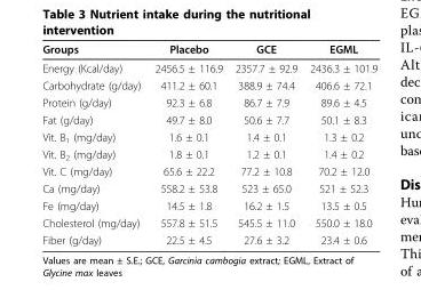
<table><thead><tr><td>Groups</td><td>Placebo</td><td>GCE</td><td>EGML</td></tr></thead><tbody><tr><td>Energy (Kcal/day)</td><td>2456.5 ± 116.9</td><td>2357.7 ± 92.9</td><td>2436.3 ± 101.9</td></tr><tr><td>Carbohydrate (g/day)</td><td>411.2 ± 60.1</td><td>388.9 ± 74.4</td><td>406.6 ± 72.1</td></tr><tr><td>Protein (g/day)</td><td>92.3 ± 6.8</td><td>86.7 ± 7.9</td><td>89.6 ± 4.5</td></tr><tr><td>Fat (g/day)</td><td>49.7 ± 8.0</td><td>50.6 ± 7.7</td><td>50.1 ± 8.3</td></tr><tr><td>Vit. B<sub>1</sub> (mg/day)</td><td>1.6 ± 0.1</td><td>1.4 ± 0.1</td><td>1.3 ± 0.2</td></tr><tr><td>Vit. B<sub>2</sub> (mg/day)</td><td>1.8 ± 0.1</td><td>1.2 ± 0.1</td><td>1.4 ± 0.2</td></tr><tr><td>Vit. C (mg/day)</td><td>65.6 ± 22.2</td><td>77.2 ± 10.8</td><td>70.2 ± 12.0</td></tr><tr><td>Ca (mg/day)</td><td>558.2 ± 53.8</td><td>523 ± 65.0</td><td>521 ± 52.3</td></tr><tr><td>Fe (mg/day)</td><td>14.5 ± 1.8</td><td>16.2 ± 1.5</td><td>13.5 ± 0.5</td></tr><tr><td>Cholesterol (mg/day)</td><td>557.8 ± 51.5</td><td>545.5 ± 11.0</td><td>550.0 ± 18.0</td></tr><tr><td>Fiber (g/day)</td><td>22.5 ± 4.5</td><td>27.6 ± 3.2</td><td>23.4 ± 0.6</td></tr></tbody></table>